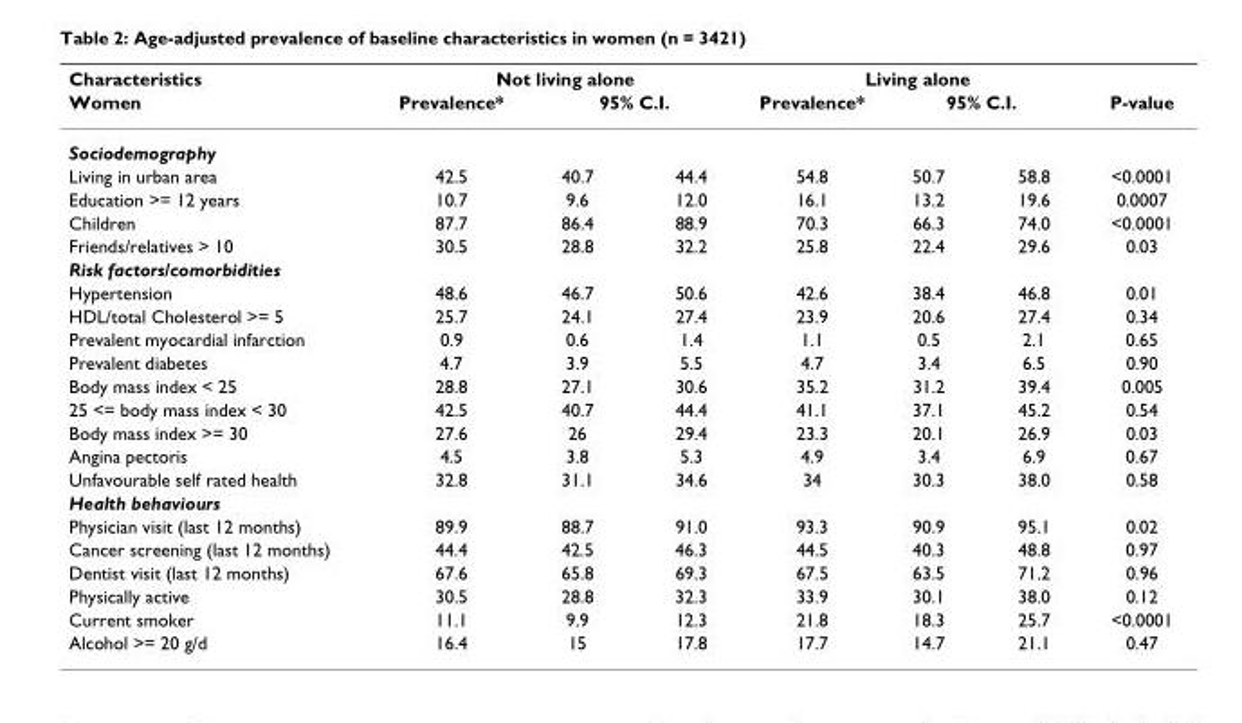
<table><thead><tr><td rowspan="3">Characteristics Women Sociodemography</td><td colspan="3">Not living alone</td><td colspan="3">Living alone</td><td rowspan="3">P-value</td></tr><tr><td rowspan="2">Prevalence*</td><td colspan="2">95% C.I.</td><td rowspan="2">Prevalence*</td><td colspan="2">95% C.I.</td></tr><tr><td></td><td></td><td></td><td></td></tr></thead><tbody><tr><td>Living in urban area</td><td>42.5</td><td>40.7</td><td>44.4</td><td>54.8</td><td>50.7</td><td>58.8</td><td>&lt;0.0001</td></tr><tr><td>Education &gt;= 12 years</td><td>10.7</td><td>9.6</td><td>12.0</td><td>16.1</td><td>13.2</td><td>19.6</td><td>0.0007</td></tr><tr><td>Children</td><td>87.7</td><td>86.4</td><td>88.9</td><td>70.3</td><td>66.3</td><td>74.0</td><td>&lt;0.0001</td></tr><tr><td>Friends/relatives &gt; 10</td><td>30.5</td><td>28.8</td><td>32.2</td><td>25.8</td><td>22.4</td><td>29.6</td><td>0.03</td></tr><tr><td colspan="8">Risk factors/comorbidities</td></tr><tr><td>Hypertension</td><td>48.6</td><td>46.7</td><td>50.6</td><td>42.6</td><td>38.4</td><td>46.8</td><td>0.01</td></tr><tr><td>HDL/total Cholesterol &gt;= 5</td><td>25.7</td><td>24.1</td><td>27.4</td><td>23.9</td><td>20.6</td><td>27.4</td><td>0.34</td></tr><tr><td>Prevalent myocardial infarction</td><td>0.9</td><td>0.6</td><td>1.4</td><td>1.1</td><td>0.5</td><td>2.1</td><td>0.65</td></tr><tr><td>Prevalent diabetes</td><td>4.7</td><td>3.9</td><td>5.5</td><td>4.7</td><td>3.4</td><td>6.5</td><td>0.90</td></tr><tr><td>Body mass index &lt; 25</td><td>28.8</td><td>27.1</td><td>30.6</td><td>35.2</td><td>31.2</td><td>39.4</td><td>0.005</td></tr><tr><td>25 &lt;= body mass index &lt; 30</td><td>42.5</td><td>40.7</td><td>44.4</td><td>41.1</td><td>37.1</td><td>45.2</td><td>0.54</td></tr><tr><td>Body mass index &gt;= 30</td><td>27.6</td><td>26</td><td>29.4</td><td>23.3</td><td>20.1</td><td>26.9</td><td>0.03</td></tr><tr><td>Angina pectoris</td><td>4.5</td><td>3.8</td><td>5.3</td><td>4.9</td><td>3.4</td><td>6.9</td><td>0.67</td></tr><tr><td>Unfavourable self rated health</td><td>32.8</td><td>31.1</td><td>34.6</td><td>34</td><td>30.3</td><td>38.0</td><td>0.58</td></tr><tr><td colspan="8">Health behaviours</td></tr><tr><td>Physician visit (last 12 months)</td><td>89.9</td><td>88.7</td><td>91.0</td><td>93.3</td><td>90.9</td><td>95.1</td><td>0.02</td></tr><tr><td>Cancer screening (last 12 months)</td><td>44.4</td><td>42.5</td><td>46.3</td><td>44.5</td><td>40.3</td><td>48.8</td><td>0.97</td></tr><tr><td>Dentist visit (last 12 months)</td><td>67.6</td><td>65.8</td><td>69.3</td><td>67.5</td><td>63.5</td><td>71.2</td><td>0.96</td></tr><tr><td>Physically active</td><td>30.5</td><td>28.8</td><td>32.3</td><td>33.9</td><td>30.1</td><td>38.0</td><td>0.12</td></tr><tr><td>Current smoker</td><td>11.1</td><td>9.9</td><td>12.3</td><td>21.8</td><td>18.3</td><td>25.7</td><td>&lt;0.0001</td></tr><tr><td>Alcohol &gt;= 20 g/d</td><td>16.4</td><td>15</td><td>17.8</td><td>17.7</td><td>14.7</td><td>21.1</td><td>0.47</td></tr></tbody></table>